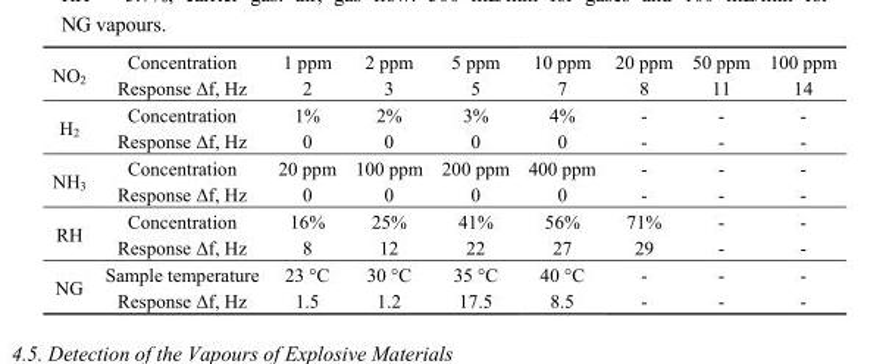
<table><tbody><tr><td rowspan="2">NO<sub>2</sub></td><td>Concentration</td><td>1 ppm</td><td>2 ppm</td><td>5 ppm</td><td>10 ppm</td><td>20 ppm</td><td>50 ppm</td><td>100 ppm</td></tr><tr><td>Response Δf, Hz</td><td>2</td><td>3</td><td>5</td><td>7</td><td>8</td><td>11</td><td>14</td></tr><tr><td rowspan="2">H<sub>2</sub></td><td>Concentration</td><td>1%</td><td>2%</td><td>3%</td><td>4%</td><td>-</td><td>-</td><td>-</td></tr><tr><td>Response Δf, Hz</td><td>0</td><td>0</td><td>0</td><td>0</td><td>-</td><td>-</td><td>-</td></tr><tr><td rowspan="2">NH<sub>3</sub></td><td>Concentration</td><td>20 ppm</td><td>100 ppm</td><td>200 ppm</td><td>400 ppm</td><td>-</td><td>-</td><td>-</td></tr><tr><td>Response Δf, Hz</td><td>0</td><td>0</td><td>0</td><td>0</td><td>-</td><td>-</td><td>-</td></tr><tr><td rowspan="2">RH</td><td>Concentration</td><td>16%</td><td>25%</td><td>41%</td><td>56%</td><td>71%</td><td>-</td><td>-</td></tr><tr><td>Response Δf, Hz</td><td>8</td><td>12</td><td>22</td><td>27</td><td>29</td><td>-</td><td>-</td></tr><tr><td rowspan="2">NG</td><td>Sample temperature</td><td>23 °C</td><td>30 °C</td><td>35 °C</td><td>40 °C</td><td>-</td><td>-</td><td>-</td></tr><tr><td>Response Δf, Hz</td><td>1.5</td><td>1.2</td><td>17.5</td><td>8.5</td><td>-</td><td>-</td><td>-</td></tr></tbody></table>